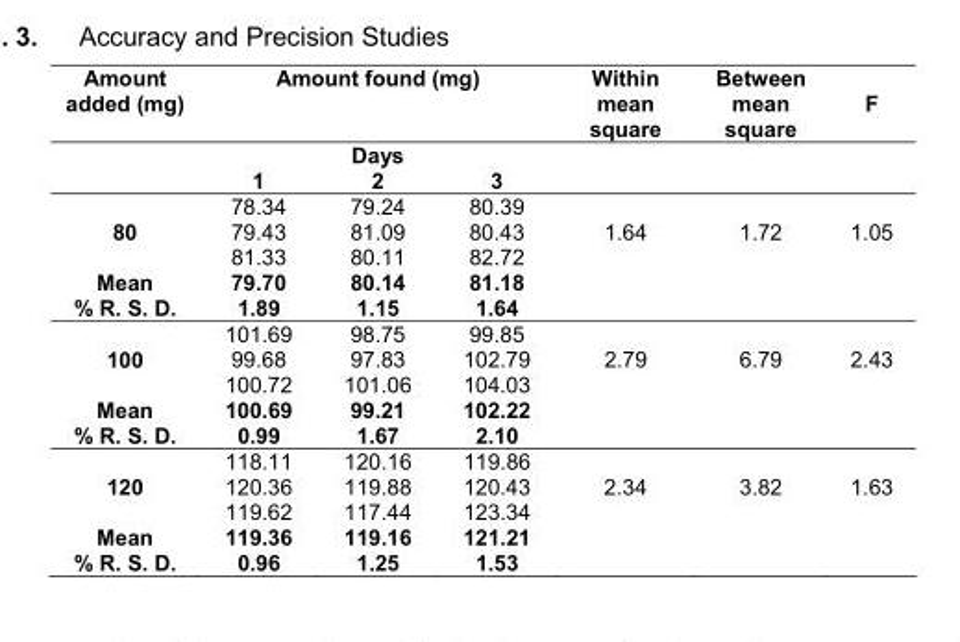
<table><thead><tr><td rowspan="3">Amount added (mg)</td><td rowspan="2" colspan="3">Amount found (mg) Days</td><td rowspan="3">Within mean square</td><td rowspan="3">Between mean square</td><td rowspan="3">F</td></tr><tr></tr><tr><td>1</td><td>2</td><td>3</td></tr></thead><tbody><tr><td></td><td>78.34</td><td>79.24</td><td>80.39</td><td></td><td></td><td></td></tr><tr><td rowspan="2">80</td><td>79.43</td><td>81.09</td><td>80.43</td><td>1.64</td><td>1.72</td><td>1.05</td></tr><tr><td>81.33</td><td>80.11</td><td>82.72</td><td></td><td></td><td></td></tr><tr><td>Mean</td><td>79.70</td><td>80.14</td><td>81.18</td><td></td><td></td><td></td></tr><tr><td rowspan="2">% R. S. D.</td><td>1.89</td><td>1.15</td><td>1.64</td><td></td><td></td><td></td></tr><tr><td>101.69</td><td>98.75</td><td>99.85</td><td></td><td></td><td></td></tr><tr><td rowspan="2">100</td><td>99.68</td><td>97.83</td><td>102.79</td><td>2.79</td><td>6.79</td><td>2.43</td></tr><tr><td>100.72</td><td>101.06</td><td>104.03</td><td></td><td></td><td></td></tr><tr><td>Mean</td><td>100.69</td><td>99.21</td><td>102.22</td><td></td><td></td><td></td></tr><tr><td rowspan="2">% R. S. D.</td><td>0.99</td><td>1.67</td><td>2.10</td><td></td><td></td><td></td></tr><tr><td>118.11</td><td>120.16</td><td>119.86</td><td></td><td></td><td></td></tr><tr><td rowspan="2">120</td><td>120.36</td><td>119.88</td><td>120.43</td><td>2.34</td><td>3.82</td><td>1.63</td></tr><tr><td>119.62</td><td>117.44</td><td>123.34</td><td></td><td></td><td></td></tr><tr><td>Mean</td><td>119.36</td><td>119.16</td><td>121.21</td><td></td><td></td><td></td></tr><tr><td>% R. S. D.</td><td>0.96</td><td>1.25</td><td>1.53</td><td></td><td></td><td></td></tr></tbody></table>